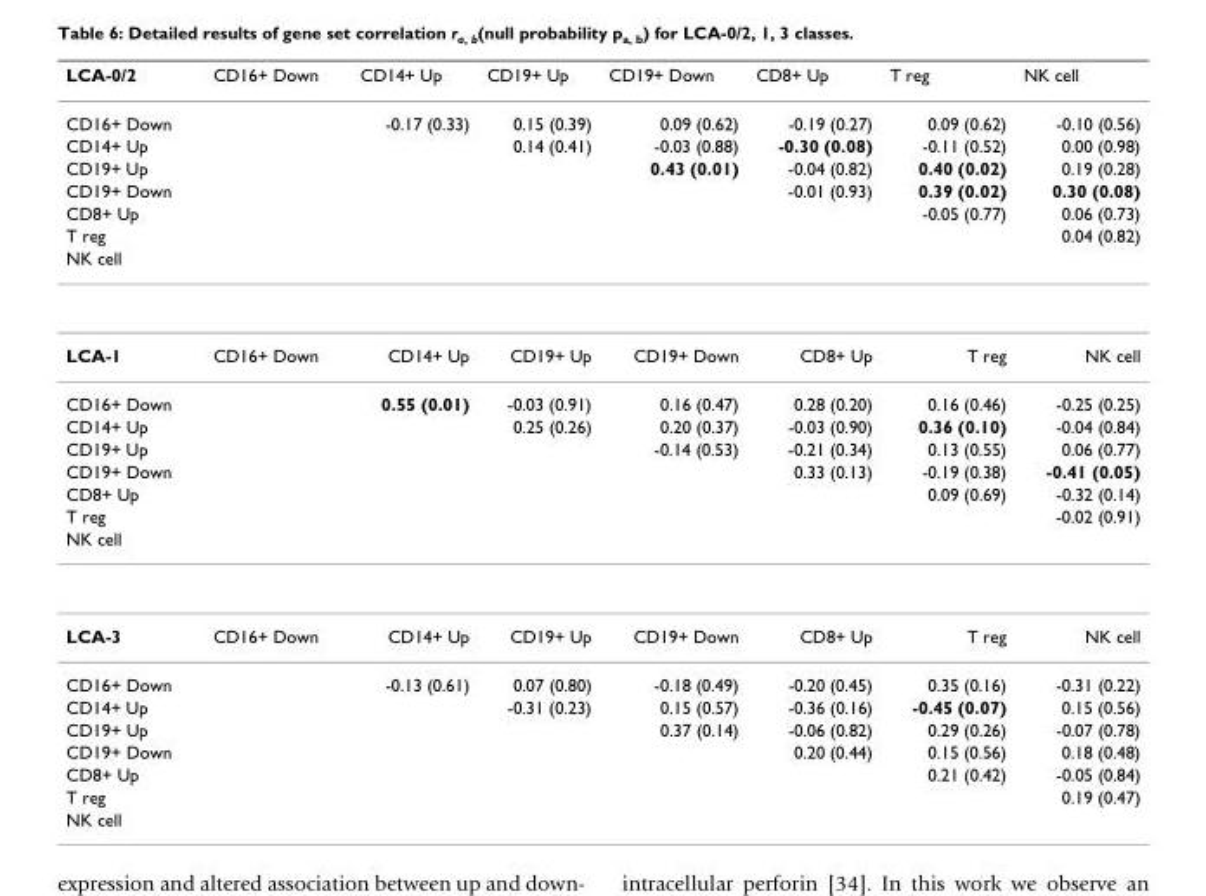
<table><thead><tr><td>LCA-0/2</td><td>CD16+ Down</td><td>CD14+ Up</td><td>CD19+ Up</td><td>CD19+ Down</td><td>CD8+ Up</td><td>T reg</td><td>NK cell</td></tr></thead><tbody><tr><td>CD16+ Down</td><td></td><td>-0.17 (0.33)</td><td>0.15 (0.39)</td><td>0.09 (0.62)</td><td>-0.19 (0.27)</td><td>0.09 (0.62)</td><td>-0.10 (0.56)</td></tr><tr><td>CD14+ Up</td><td></td><td></td><td>0.14 (0.41)</td><td>-0.03 (0.88)</td><td>-0.30 (0.08)</td><td>-0.11 (0.52)</td><td>0.00 (0.98)</td></tr><tr><td>CD19+ Up</td><td></td><td></td><td></td><td>0.43 (0.01)</td><td>-0.04 (0.82)</td><td>0.40 (0.02)</td><td>0.19 (0.28)</td></tr><tr><td>CD19+ Down</td><td></td><td></td><td></td><td></td><td>-0.01 (0.93)</td><td>0.39 (0.02)</td><td>0.30 (0.08)</td></tr><tr><td>CD8+ Up</td><td></td><td></td><td></td><td></td><td></td><td>-0.05 (0.77)</td><td>0.06 (0.73)</td></tr><tr><td>T reg</td><td></td><td></td><td></td><td></td><td></td><td></td><td>0.04 (0.82)</td></tr><tr><td colspan="8">NK cell</td></tr><tr><td>LCA-1</td><td>CD16+ Down</td><td>CD14+ Up</td><td>CD19+ Up</td><td>CD19+ Down</td><td>CD8+ Up</td><td>T reg</td><td>NK cell</td></tr><tr><td>CD16+ Down</td><td></td><td>0.55 (0.01)</td><td>-0.03 (0.91)</td><td>0.16 (0.47)</td><td>0.28 (0.20)</td><td>0.16 (0.46)</td><td>-0.25 (0.25)</td></tr><tr><td>CD14+ Up</td><td></td><td></td><td>0.25 (0.26)</td><td>0.20 (0.37)</td><td>-0.03 (0.90)</td><td>0.36 (0.10)</td><td>-0.04 (0.84)</td></tr><tr><td>CD19+ Up</td><td></td><td></td><td></td><td>-0.14 (0.53)</td><td>-0.21 (0.34)</td><td>0.13 (0.55)</td><td>0.06 (0.77)</td></tr><tr><td>CD19+ Down</td><td></td><td></td><td></td><td></td><td>0.33 (0.13)</td><td>-0.19 (0.38)</td><td>-0.41 (0.05)</td></tr><tr><td>CD8+ Up</td><td></td><td></td><td></td><td></td><td></td><td>0.09 (0.69)</td><td>-0.32 (0.14)</td></tr><tr><td>T reg</td><td></td><td></td><td></td><td></td><td></td><td></td><td>-0.02 (0.91)</td></tr><tr><td colspan="8">NK cell</td></tr><tr><td>LCA-3</td><td>CD16+ Down</td><td>CD14+ Up</td><td>CD19+ Up</td><td>CD19+ Down</td><td>CD8+ Up</td><td>T reg</td><td>NK cell</td></tr><tr><td>CD16+ Down</td><td></td><td>-0.13 (0.61)</td><td>0.07 (0.80)</td><td>-0.18 (0.49)</td><td>-0.20 (0.45)</td><td>0.35 (0.16)</td><td>-0.31 (0.22)</td></tr><tr><td>CD14+ Up</td><td></td><td></td><td>-0.31 (0.23)</td><td>0.15 (0.57)</td><td>-0.36 (0.16)</td><td>-0.45 (0.07)</td><td>0.15 (0.56)</td></tr><tr><td>CD19+ Up</td><td></td><td></td><td></td><td>0.37 (0.14)</td><td>-0.06 (0.82)</td><td>0.29 (0.26)</td><td>-0.07 (0.78)</td></tr><tr><td>CD19+ Down</td><td></td><td></td><td></td><td></td><td>0.20 (0.44)</td><td>0.15 (0.56)</td><td>0.18 (0.48)</td></tr><tr><td>CD8+ Up</td><td></td><td></td><td></td><td></td><td></td><td>0.21 (0.42)</td><td>-0.05 (0.84)</td></tr><tr><td>T reg</td><td></td><td></td><td></td><td></td><td></td><td></td><td>0.19 (0.47)</td></tr><tr><td>NK cell</td><td></td><td></td><td></td><td></td><td></td><td></td><td></td></tr></tbody></table>